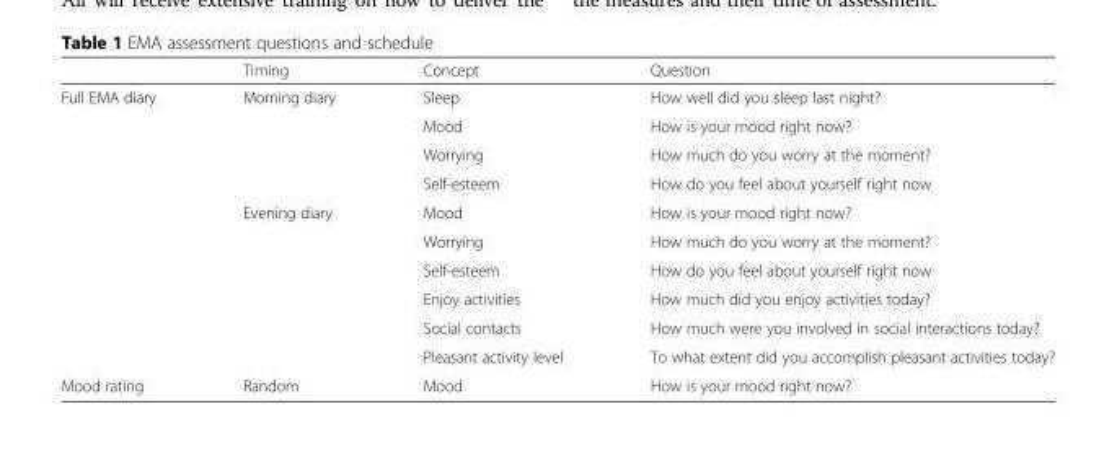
<table><thead><tr><td></td><td>Timing</td><td>Concept</td><td>Question</td></tr></thead><tbody><tr><td rowspan="10">Full EMA diary</td><td>Morning diary</td><td>Sleep</td><td>How well did you sleep last night?</td></tr><tr><td></td><td>Mood</td><td>How is your mood right now?</td></tr><tr><td></td><td>Worrying</td><td>How much do you worry at the moment?</td></tr><tr><td></td><td>Self-esteem</td><td>How do you feel about yourself right now</td></tr><tr><td>Evening diary</td><td>Mood</td><td>How is your mood right now?</td></tr><tr><td></td><td>Worrying</td><td>How much do you worry at the moment?</td></tr><tr><td></td><td>Self-esteem</td><td>How do you feel about yourself right now</td></tr><tr><td></td><td>Enjoy activities</td><td>How much did you enjoy activities today?</td></tr><tr><td></td><td>Social contacts</td><td>How much were you involved in social interactions today?</td></tr><tr><td></td><td>Pleasant activity level</td><td>To what extent did you accomplish pleasant activities today?</td></tr><tr><td>Mood rating</td><td>Random</td><td>Mood</td><td>How is your mood right now?</td></tr></tbody></table>